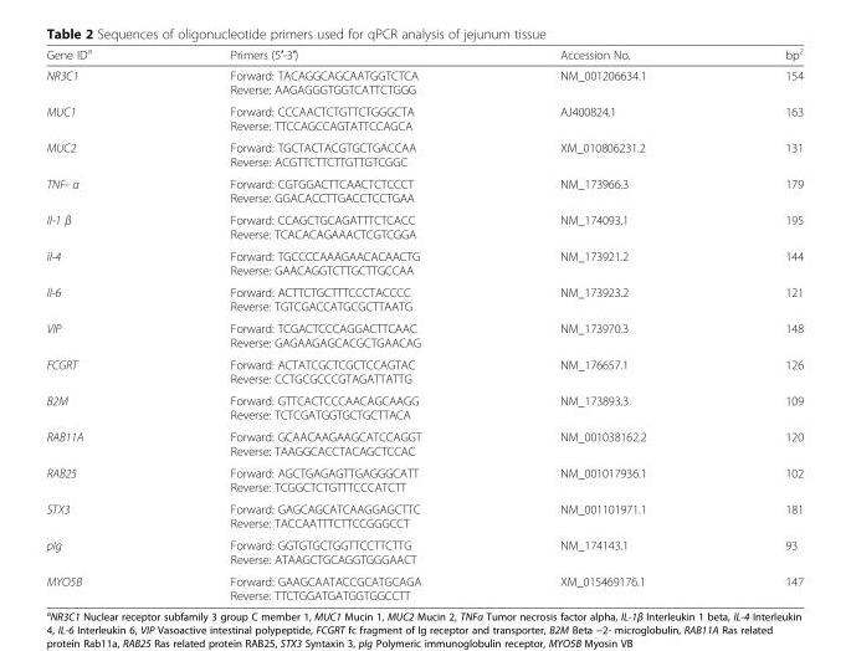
<table><thead><tr><td>Gene ID<sup>a</sup></td><td>Primers (5′-3′)</td><td>Accession No.</td><td>bp<sup>2</sup></td></tr></thead><tbody><tr><td>NR3C1</td><td>Forward: TACAGGCAGCAATGGTCTCA Reverse: AAGAGGGTGGTCATTCTGGG</td><td>NM_001206634.1</td><td>154</td></tr><tr><td>MUC1</td><td>Forward: CCCAACTCTGTTCTGGGCTA Reverse: TTCCAGCCAGTATTCCAGCA</td><td>AJ400824.1</td><td>163</td></tr><tr><td>MUC2</td><td>Forward: TGCTACTACGTGCTGACCAA Reverse: ACGTTCTTCTTGTTGTCGGC</td><td>XM_010806231.2</td><td>131</td></tr><tr><td>TNF- α</td><td>Forward: CGTGGACTTCAACTCTCCCT Reverse: GGACACCTTGACCTCCTGAA</td><td>NM_173966.3</td><td>179</td></tr><tr><td>Il-1 β</td><td>Forward: CCAGCTGCAGATTTCTCACC Reverse: TCACACAGAAACTCGTCGGA</td><td>NM_174093.1</td><td>195</td></tr><tr><td>il-4</td><td>Forward: TGCCCCAAAGAACACAACTG Reverse: GAACAGGTCTTGCTTGCCAA</td><td>NM_173921.2</td><td>144</td></tr><tr><td>Il-6</td><td>Forward: ACTTCTGCTTTCCCTACCCC Reverse: TGTCGACCATGCGCTTAATG</td><td>NM_173923.2</td><td>121</td></tr><tr><td>VIP</td><td>Forward: TCGACTCCCAGGACTTCAAC Reverse: GAGAAGAGCACGCTGAACAG</td><td>NM_173970.3</td><td>148</td></tr><tr><td>FCGRT</td><td>Forward: ACTATCGCTCGCTCCAGTAC Reverse: CCTGCGCCCGTAGATTATTG</td><td>NM_176657.1</td><td>126</td></tr><tr><td>B2M</td><td>Forward: GTTCACTCCCAACAGCAAGG Reverse: TCTCGATGGTGCTGCTTACA</td><td>NM_173893.3</td><td>109</td></tr><tr><td>RAB11A</td><td>Forward: GCAACAAGAAGCATCCAGGT Reverse: TAAGGCACCTACAGCTCCAC</td><td>NM_001038162.2</td><td>120</td></tr><tr><td>RAB25</td><td>Forward: AGCTGAGAGTTGAGGGCATT Reverse: TCGGCTCTGTTTCCCATCTT</td><td>NM_001017936.1</td><td>102</td></tr><tr><td>STX3</td><td>Forward: GAGCAGCATCAAGGAGCTTC Reverse: TACCAATTTCTTCCGGGCCT</td><td>NM_001101971.1</td><td>181</td></tr><tr><td>pIg</td><td>Forward: GGTGTGCTGGTTCCTTCTTG Reverse: ATAAGCTGCAGGTGGGAACT</td><td>NM_174143.1</td><td>93</td></tr><tr><td>MYO5B</td><td>Forward: GAAGCAATACCGCATGCAGA Reverse: TTCTGGATGATGGTGGCCTT</td><td>XM_015469176.1</td><td>147</td></tr></tbody></table>